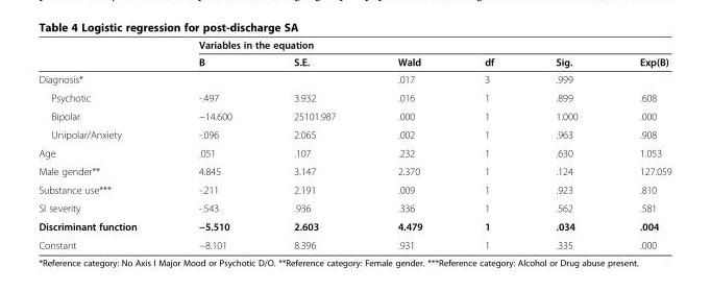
<table><thead><tr><td rowspan="2"></td><td colspan="6">Variables in the equation</td></tr><tr><td>B</td><td>S.E.</td><td>Wald</td><td>df</td><td>Sig.</td><td>Exp(B)</td></tr></thead><tbody><tr><td>Diagnosis*</td><td></td><td></td><td>.017</td><td>3</td><td>.999</td><td></td></tr><tr><td>Psychotic</td><td>-.497</td><td>3.932</td><td>.016</td><td>1</td><td>.899</td><td>.608</td></tr><tr><td>Bipolar</td><td>−14.600</td><td>25101.987</td><td>.000</td><td>1</td><td>1.000</td><td>.000</td></tr><tr><td>Unipolar/Anxiety</td><td>-.096</td><td>2.065</td><td>.002</td><td>1</td><td>.963</td><td>.908</td></tr><tr><td>Age</td><td>.051</td><td>.107</td><td>.232</td><td>1</td><td>.630</td><td>1.053</td></tr><tr><td>Male gender**</td><td>4.845</td><td>3.147</td><td>2.370</td><td>1</td><td>.124</td><td>127.059</td></tr><tr><td>Substance use***</td><td>-.211</td><td>2.191</td><td>.009</td><td>1</td><td>.923</td><td>.810</td></tr><tr><td>SI severity</td><td>-.543</td><td>.936</td><td>.336</td><td>1</td><td>.562</td><td>.581</td></tr><tr><td>Discriminant function</td><td>−5.510</td><td>2.603</td><td>4.479</td><td>1</td><td>.034</td><td>.004</td></tr><tr><td>Constant</td><td>−8.101</td><td>8.396</td><td>.931</td><td>1</td><td>.335</td><td>.000</td></tr></tbody></table>